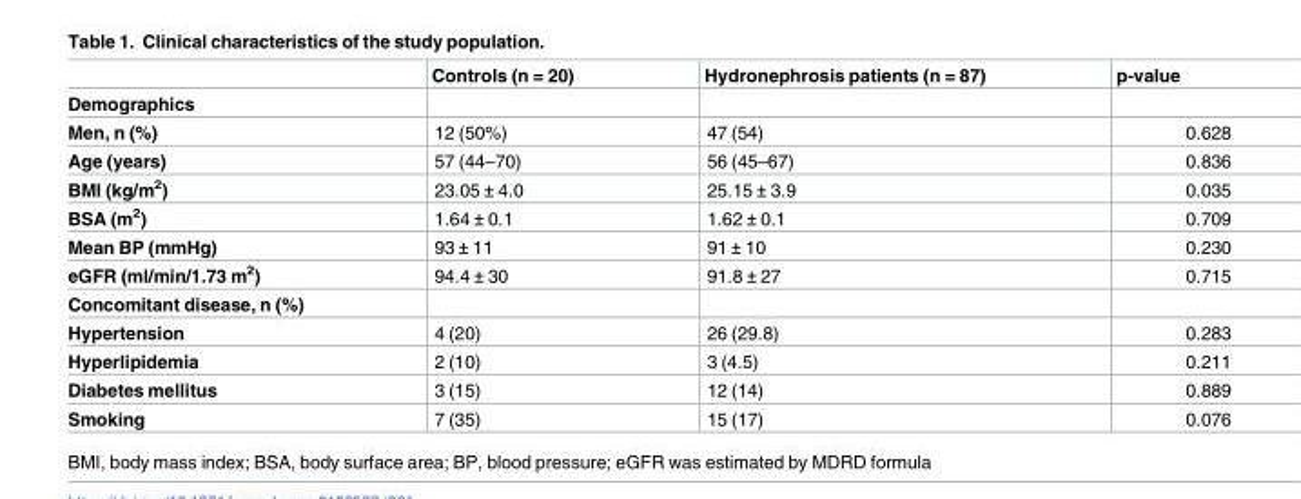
<table><thead><tr><td></td><td>Controls (n = 20)</td><td>Hydronephrosis patients (n = 87)</td><td>p-value</td></tr></thead><tbody><tr><td colspan="4">Demographics</td></tr><tr><td>Men, n (%)</td><td>12 (50%)</td><td>47 (54)</td><td>0.628</td></tr><tr><td>Age (years)</td><td>57 (44–70)</td><td>56 (45–67)</td><td>0.836</td></tr><tr><td>BMI (kg/m<sup>2</sup>)</td><td>23.05 ± 4.0</td><td>25.15 ± 3.9</td><td>0.035</td></tr><tr><td>BSA (m<sup>2</sup>)</td><td>1.64 ± 0.1</td><td>1.62 ± 0.1</td><td>0.709</td></tr><tr><td>Mean BP (mmHg)</td><td>93 ± 11</td><td>91 ± 10</td><td>0.230</td></tr><tr><td>eGFR (ml/min/1.73 m<sup>2</sup>)</td><td>94.4 ± 30</td><td>91.8 ± 27</td><td>0.715</td></tr><tr><td colspan="4">Concomitant disease, n (%)</td></tr><tr><td>Hypertension</td><td>4 (20)</td><td>26 (29.8)</td><td>0.283</td></tr><tr><td>Hyperlipidemia</td><td>2 (10)</td><td>3 (4.5)</td><td>0.211</td></tr><tr><td>Diabetes mellitus</td><td>3 (15)</td><td>12 (14)</td><td>0.889</td></tr><tr><td>Smoking</td><td>7 (35)</td><td>15 (17)</td><td>0.076</td></tr></tbody></table>